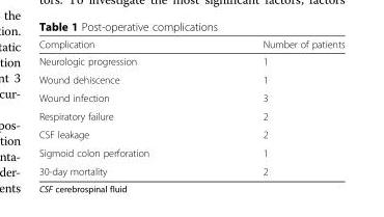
<table><thead><tr><td>Complication</td><td>Number of patients</td></tr></thead><tbody><tr><td>Neurologic progression</td><td>1</td></tr><tr><td>Wound dehiscence</td><td>1</td></tr><tr><td>Wound infection</td><td>3</td></tr><tr><td>Respiratory failure</td><td>2</td></tr><tr><td>CSF leakage</td><td>2</td></tr><tr><td>Sigmoid colon perforation</td><td>1</td></tr><tr><td>30-day mortality</td><td>2</td></tr></tbody></table>